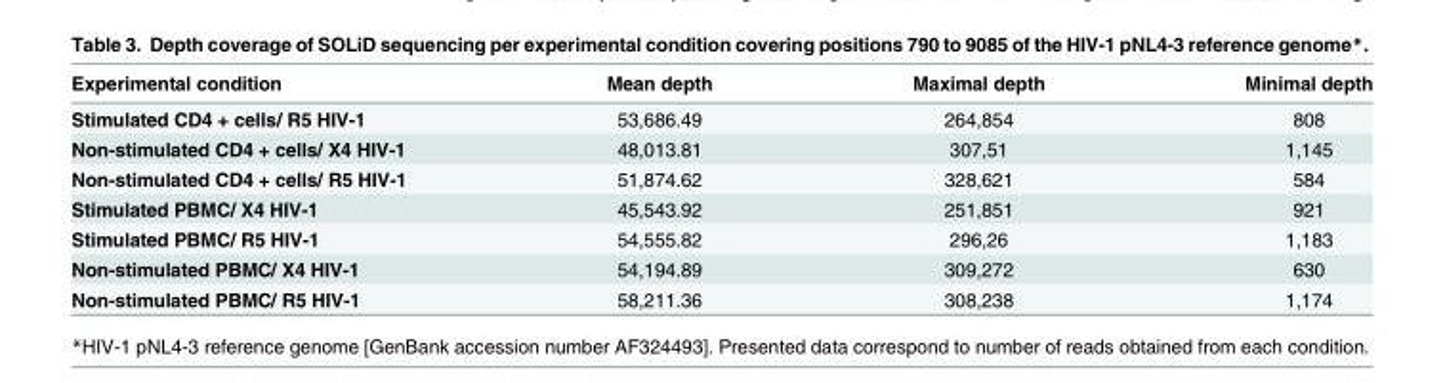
<table><thead><tr><td>Experimental condition</td><td>Mean depth</td><td>Maximal depth</td><td>Minimal depth</td></tr></thead><tbody><tr><td>Stimulated CD4 + cells/ R5 HIV-1</td><td>53,686.49</td><td>264,854</td><td>808</td></tr><tr><td>Non-stimulated CD4 + cells/ X4 HIV-1</td><td>48,013.81</td><td>307,51</td><td>1,145</td></tr><tr><td>Non-stimulated CD4 + cells/ R5 HIV-1</td><td>51,874.62</td><td>328,621</td><td>584</td></tr><tr><td>Stimulated PBMC/ X4 HIV-1</td><td>45,543.92</td><td>251,851</td><td>921</td></tr><tr><td>Stimulated PBMC/ R5 HIV-1</td><td>54,555.82</td><td>296,26</td><td>1,183</td></tr><tr><td>Non-stimulated PBMC/ X4 HIV-1</td><td>54,194.89</td><td>309,272</td><td>630</td></tr><tr><td>Non-stimulated PBMC/ R5 HIV-1</td><td>58,211.36</td><td>308,238</td><td>1,174</td></tr></tbody></table>